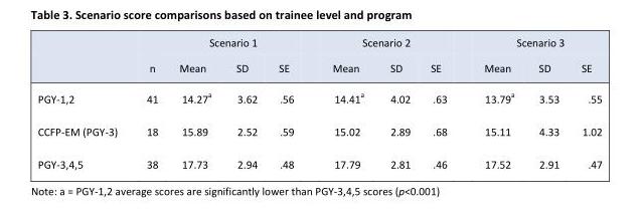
<table><thead><tr><td rowspan="2"></td><td rowspan="2">n</td><td colspan="3">Scenario 1</td><td colspan="3">Scenario 2</td><td colspan="3">Scenario 3</td></tr><tr><td>Mean</td><td>SD</td><td>SE</td><td>Mean</td><td>SD</td><td>SE</td><td>Mean</td><td>SD</td><td>SE</td></tr></thead><tbody><tr><td>PGY-1,2</td><td>41</td><td>14.27<sup>a</sup></td><td>3.62</td><td>.56</td><td>14.41<sup>a</sup></td><td>4.02</td><td>.63</td><td>13.79<sup>a</sup></td><td>3.53</td><td>.55</td></tr><tr><td>CCFP-EM (PGY-3)</td><td>18</td><td>15.89</td><td>2.52</td><td>.59</td><td>15.02</td><td>2.89</td><td>.68</td><td>15.11</td><td>4.33</td><td>1.02</td></tr><tr><td>PGY-3,4,5</td><td>38</td><td>17.73</td><td>2.94</td><td>.48</td><td>17.79</td><td>2.81</td><td>.46</td><td>17.52</td><td>2.91</td><td>.47</td></tr></tbody></table>